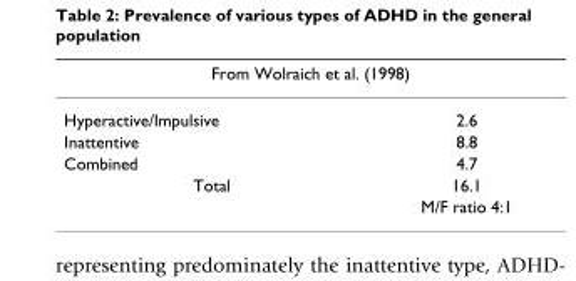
<table><thead><tr><td colspan="2">From Wolraich et al. (1998)</td></tr><tr><td>Hyperactive/Impulsive</td><td>2.6</td></tr></thead><tbody><tr><td>Inattentive</td><td>8.8</td></tr><tr><td>Combined</td><td>4.7</td></tr><tr><td rowspan="2">Total</td><td>16.1</td></tr><tr><td>M/F ratio 4:1</td></tr></tbody></table>